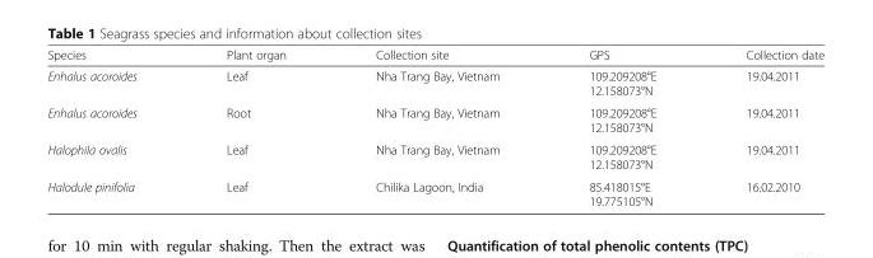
<table><thead><tr><td>Species</td><td>Plant organ</td><td>Collection site</td><td>GPS</td><td>Collection date</td></tr></thead><tbody><tr><td>Enhalus acoroides</td><td>Leaf</td><td>Nha Trang Bay, Vietnam</td><td>109.209208°E 12.158073°N</td><td>19.04.2011</td></tr><tr><td>Enhalus acoroides</td><td>Root</td><td>Nha Trang Bay, Vietnam</td><td>109.209208°E 12.158073°N</td><td>19.04.2011</td></tr><tr><td>Halophila ovalis</td><td>Leaf</td><td>Nha Trang Bay, Vietnam</td><td>109.209208°E 12.158073°N</td><td>19.04.2011</td></tr><tr><td>Halodule pinifolia</td><td>Leaf</td><td>Chilika Lagoon, India</td><td>85.418015°E 19.775105°N</td><td>16.02.2010</td></tr></tbody></table>